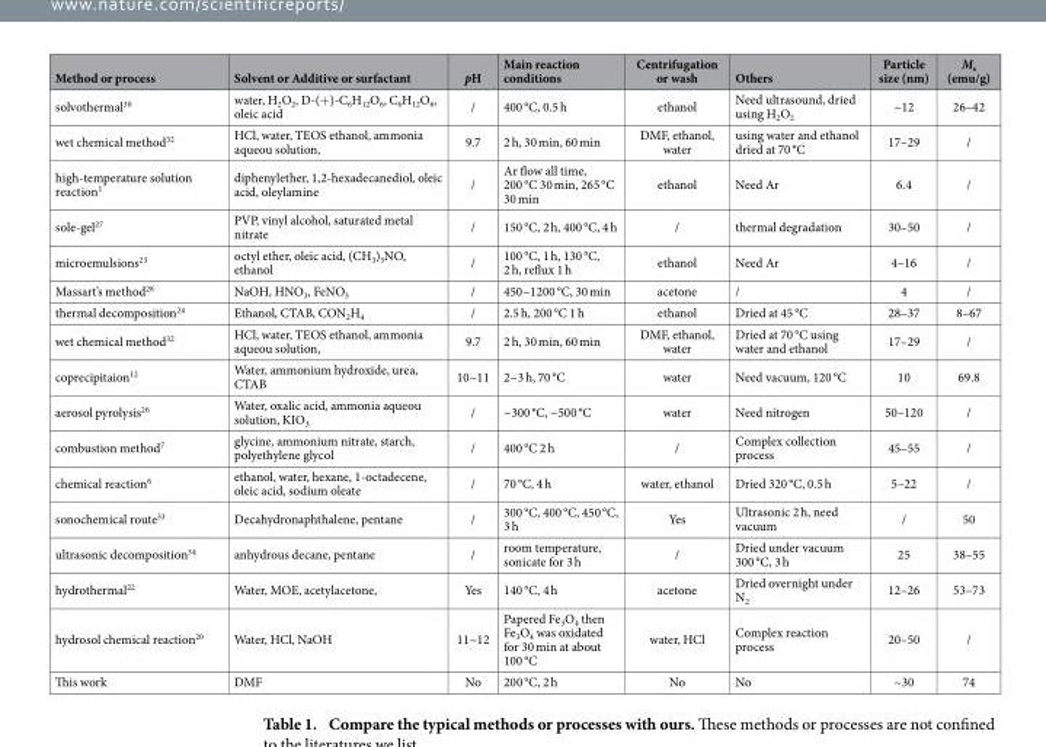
<table><thead><tr><td>Method or process</td><td>Solvent or Additive or surfactant</td><td>pH</td><td>Main reaction conditions</td><td>Centrifugation or wash</td><td>Others</td><td>Particle size (nm)</td><td>M<sub>s</sub> (emu/g)</td></tr></thead><tbody><tr><td>solvothermal<sup>30</sup></td><td>water, H<sub>2</sub>O<sub>2</sub>, D-(+ )-C<sub>6</sub>H<sub>12</sub>O<sub>6</sub>, C<sub>6</sub>H<sub>12</sub>O<sub>6</sub>, oleic acid</td><td>/</td><td>400 °C, 0.5 h</td><td>ethanol</td><td>Need ultrasound, dried using H<sub>2</sub>O<sub>2</sub></td><td>~12</td><td>26–42</td></tr><tr><td>wet chemical method<sup>32</sup></td><td>HCl, water, TEOS ethanol, ammonia aqueou solution,</td><td>9.7</td><td>2 h, 30 min, 60 min</td><td>DMF, ethanol, water</td><td>using water and ethanol dried at 70 °C</td><td>17–29</td><td>/</td></tr><tr><td>high-temperature solution reaction<sup>1</sup></td><td>diphenylether, 1,2-hexadecanediol, oleic acid, oleylamine</td><td>/</td><td>Ar flow all time, 200 °C 30 min, 265 °C 30 min</td><td>ethanol</td><td>Need Ar</td><td>6.4</td><td>/</td></tr><tr><td>sole-gel<sup>27</sup></td><td>PVP, vinyl alcohol, saturated metal nitrate</td><td>/</td><td>150 °C, 2 h, 400 °C, 4 h</td><td>/</td><td>thermal degradation</td><td>30–50</td><td>/</td></tr><tr><td>microemulsions<sup>23</sup></td><td>octyl ether, oleic acid, (CH<sub>3</sub>)<sub>3</sub>NO, ethanol</td><td>/</td><td>100 °C, 1 h, 130 °C, 2 h, reflux 1 h</td><td>ethanol</td><td>Need Ar</td><td>4–16</td><td>/</td></tr><tr><td>Massart’s method<sup>28</sup></td><td>NaOH, HNO<sub>3</sub>, FeNO<sub>3</sub></td><td>/</td><td>450~1200 °C, 30 min</td><td>acetone</td><td>/</td><td>4</td><td>/</td></tr><tr><td>thermal decomposition<sup>24</sup></td><td>Ethanol, CTAB, CON<sub>2</sub>H<sub>4</sub></td><td>/</td><td>2.5 h, 200 °C 1 h</td><td>ethanol</td><td>Dried at 45 °C</td><td>28–37</td><td>8–67</td></tr><tr><td>wet chemical method<sup>32</sup></td><td>HCl, water, TEOS ethanol, ammonia aqueou solution,</td><td>9.7</td><td>2 h, 30 min, 60 min</td><td>DMF, ethanol, water</td><td>Dried at 70 °C using water and ethanol</td><td>17–29</td><td>/</td></tr><tr><td>coprecipitaion<sup>12</sup></td><td>Water, ammonium hydroxide, urea, CTAB</td><td>10~11</td><td>2~3 h, 70 °C</td><td>water</td><td>Need vacuum, 120 °C</td><td>10</td><td>69.8</td></tr><tr><td>aerosol pyrolysis<sup>26</sup></td><td>Water, oxalic acid, ammonia aqueou solution, KIO<sub>3</sub></td><td>/</td><td>~300 °C, ~500 °C</td><td>water</td><td>Need nitrogen</td><td>50–120</td><td>/</td></tr><tr><td>combustion method<sup>7</sup></td><td>glycine, ammonium nitrate, starch, polyethylene glycol</td><td>/</td><td>400 °C 2 h</td><td>/</td><td>Complex collection process</td><td>45–55</td><td>/</td></tr><tr><td>chemical reaction<sup>6</sup></td><td>ethanol, water, hexane, 1-octadecene, oleic acid, sodium oleate</td><td>/</td><td>70 °C, 4 h</td><td>water, ethanol</td><td>Dried 320 °C, 0.5 h</td><td>5–22</td><td>/</td></tr><tr><td>sonochemical route<sup>33</sup></td><td>Decahydronaphthalene, pentane</td><td>/</td><td>300 °C, 400 °C, 450 °C, 3 h</td><td>Yes</td><td>Ultrasonic 2 h, need vacuum</td><td>/</td><td>50</td></tr><tr><td>ultrasonic decomposition<sup>34</sup></td><td>anhydrous decane, pentane</td><td>/</td><td>room temperature, sonicate for 3 h</td><td>/</td><td>Dried under vacuum 300 °C, 3 h</td><td>25</td><td>38–55</td></tr><tr><td>hydrothermal<sup>22</sup></td><td>Water, MOE, acetylacetone,</td><td>Yes</td><td>140 °C, 4 h</td><td>acetone</td><td>Dried overnight under N<sub>2</sub></td><td>12–26</td><td>53–73</td></tr><tr><td>hydrosol chemical reaction<sup>20</sup></td><td>Water, HCl, NaOH</td><td>11~12</td><td>Papered Fe<sub>3</sub>O<sub>4</sub> then Fe<sub>3</sub>O<sub>4</sub> was oxidated for 30 min at about 100 °C</td><td>water, HCl</td><td>Complex reaction process</td><td>20–50</td><td>/</td></tr><tr><td>This work</td><td>DMF</td><td>No</td><td>200 °C, 2 h</td><td>No</td><td>No</td><td>~30</td><td>74</td></tr></tbody></table>